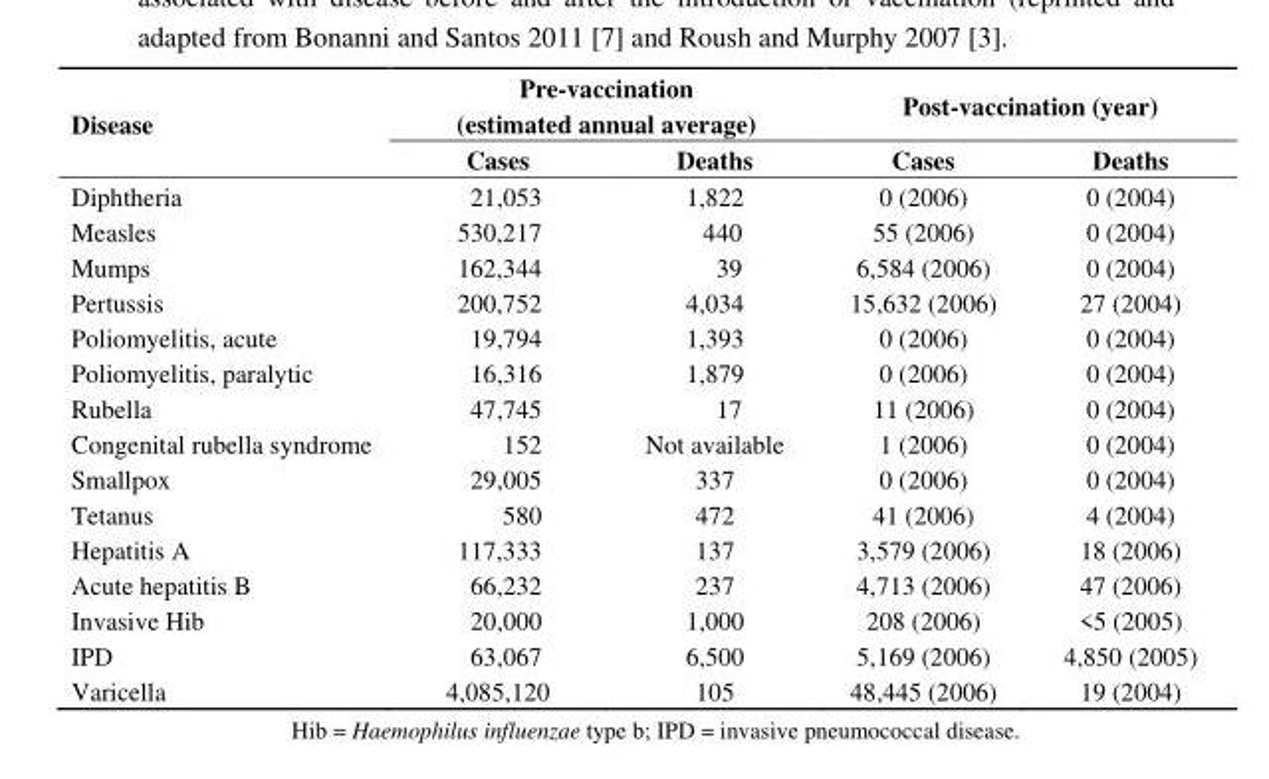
<table><thead><tr><td rowspan="2">Disease</td><td colspan="2">Pre-vaccination (estimated annual average)</td><td colspan="2">Post-vaccination (year)</td></tr><tr><td>Cases</td><td>Deaths</td><td>Cases</td><td>Deaths</td></tr></thead><tbody><tr><td>Diphtheria</td><td>21,053</td><td>1,822</td><td>0 (2006)</td><td>0 (2004)</td></tr><tr><td>Measles</td><td>530,217</td><td>440</td><td>55 (2006)</td><td>0 (2004)</td></tr><tr><td>Mumps</td><td>162,344</td><td>39</td><td>6,584 (2006)</td><td>0 (2004)</td></tr><tr><td>Pertussis</td><td>200,752</td><td>4,034</td><td>15,632 (2006)</td><td>27 (2004)</td></tr><tr><td>Poliomyelitis, acute</td><td>19,794</td><td>1,393</td><td>0 (2006)</td><td>0 (2004)</td></tr><tr><td>Poliomyelitis, paralytic</td><td>16,316</td><td>1,879</td><td>0 (2006)</td><td>0 (2004)</td></tr><tr><td>Rubella</td><td>47,745</td><td>17</td><td>11 (2006)</td><td>0 (2004)</td></tr><tr><td>Congenital rubella syndrome</td><td>152</td><td>Not available</td><td>1 (2006)</td><td>0 (2004)</td></tr><tr><td>Smallpox</td><td>29,005</td><td>337</td><td>0 (2006)</td><td>0 (2004)</td></tr><tr><td>Tetanus</td><td>580</td><td>472</td><td>41 (2006)</td><td>4 (2004)</td></tr><tr><td>Hepatitis A</td><td>117,333</td><td>137</td><td>3,579 (2006)</td><td>18 (2006)</td></tr><tr><td>Acute hepatitis B</td><td>66,232</td><td>237</td><td>4,713 (2006)</td><td>47 (2006)</td></tr><tr><td>Invasive Hib</td><td>20,000</td><td>1,000</td><td>208 (2006)</td><td>&lt;5 (2005)</td></tr><tr><td>IPD</td><td>63,067</td><td>6,500</td><td>5,169 (2006)</td><td>4,850 (2005)</td></tr><tr><td>Varicella</td><td>4,085,120</td><td>105</td><td>48,445 (2006)</td><td>19 (2004)</td></tr></tbody></table>